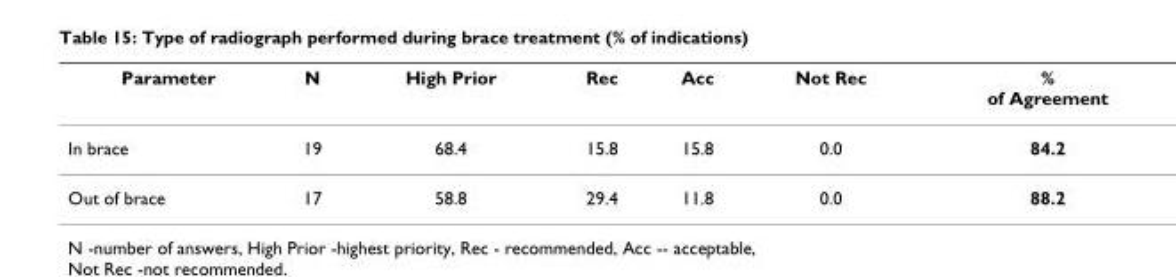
<table><thead><tr><td>Parameter</td><td>N</td><td>High Prior</td><td>Rec</td><td>Acc</td><td>Not Rec</td><td>% of Agreement</td></tr></thead><tbody><tr><td>In brace</td><td>19</td><td>68.4</td><td>15.8</td><td>15.8</td><td>0.0</td><td>84.2</td></tr><tr><td>Out of brace</td><td>17</td><td>58.8</td><td>29.4</td><td>11.8</td><td>0.0</td><td>88.2</td></tr></tbody></table>